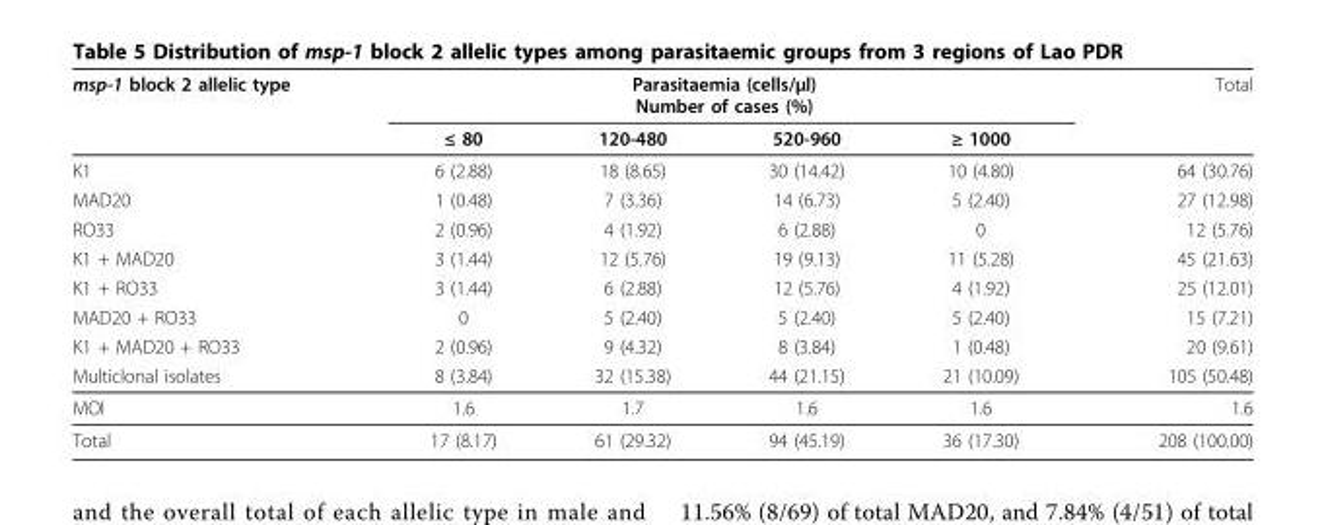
<table><thead><tr><td rowspan="2">msp-1 block 2 allelic type</td><td colspan="4">Parasitaemia (cells/μl) Number of cases (%)</td><td rowspan="2">Total</td></tr><tr><td>≤ 80</td><td>120-480</td><td>520-960</td><td>≥ 1000</td></tr></thead><tbody><tr><td>K1</td><td>6 (2.88)</td><td>18 (8.65)</td><td>30 (14.42)</td><td>10 (4.80)</td><td>64 (30.76)</td></tr><tr><td>MAD20</td><td>1 (0.48)</td><td>7 (3.36)</td><td>14 (6.73)</td><td>5 (2.40)</td><td>27 (12.98)</td></tr><tr><td>RO33</td><td>2 (0.96)</td><td>4 (1.92)</td><td>6 (2.88)</td><td>0</td><td>12 (5.76)</td></tr><tr><td>K1 + MAD20</td><td>3 (1.44)</td><td>12 (5.76)</td><td>19 (9.13)</td><td>11 (5.28)</td><td>45 (21.63)</td></tr><tr><td>K1 + RO33</td><td>3 (1.44)</td><td>6 (2.88)</td><td>12 (5.76)</td><td>4 (1.92)</td><td>25 (12.01)</td></tr><tr><td>MAD20 + RO33</td><td>0</td><td>5 (2.40)</td><td>5 (2.40)</td><td>5 (2.40)</td><td>15 (7.21)</td></tr><tr><td>K1 + MAD20 + RO33</td><td>2 (0.96)</td><td>9 (4.32)</td><td>8 (3.84)</td><td>1 (0.48)</td><td>20 (9.61)</td></tr><tr><td>Multiclonal isolates</td><td>8 (3.84)</td><td>32 (15.38)</td><td>44 (21.15)</td><td>21 (10.09)</td><td>105 (50.48)</td></tr><tr><td>MOI</td><td>1.6</td><td>1.7</td><td>1.6</td><td>1.6</td><td>1.6</td></tr><tr><td>Total</td><td>17 (8.17)</td><td>61 (29.32)</td><td>94 (45.19)</td><td>36 (17.30)</td><td>208 (100.00)</td></tr></tbody></table>